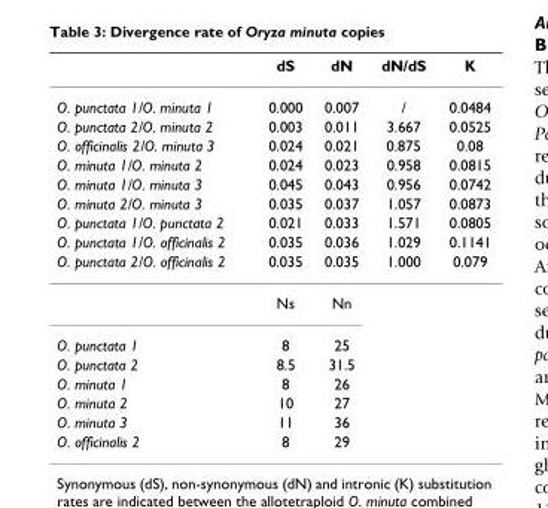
<table><thead><tr><td></td><td>dS</td><td>dN</td><td>dN/dS</td><td>K</td></tr></thead><tbody><tr><td>O. punctata 1/O. minuta 1</td><td>0.000</td><td>0.007</td><td>/</td><td>0.0484</td></tr><tr><td>O. punctata 2/O. minuta 2</td><td>0.003</td><td>0.011</td><td>3.667</td><td>0.0525</td></tr><tr><td>O. officinalis 2/O. minuta 3</td><td>0.024</td><td>0.021</td><td>0.875</td><td>0.08</td></tr><tr><td>O. minuta 1/O. minuta 2</td><td>0.024</td><td>0.023</td><td>0.958</td><td>0.0815</td></tr><tr><td>O. minuta 1/O. minuta 3</td><td>0.045</td><td>0.043</td><td>0.956</td><td>0.0742</td></tr><tr><td>O. minuta 2/O. minuta 3</td><td>0.035</td><td>0.037</td><td>1.057</td><td>0.0873</td></tr><tr><td>O. punctata 1/O. punctata 2</td><td>0.021</td><td>0.033</td><td>1.571</td><td>0.0805</td></tr><tr><td>O. punctata 1/O. officinalis 2</td><td>0.035</td><td>0.036</td><td>1.029</td><td>0.1141</td></tr><tr><td rowspan="2">O. punctata 2/O. officinalis 2</td><td>0.035</td><td>0.035</td><td>1.000</td><td>0.079</td></tr><tr><td>Ns</td><td>Nn</td><td></td><td></td></tr><tr><td>O. punctata 1</td><td>8</td><td>25</td><td></td><td></td></tr><tr><td>O. punctata 2</td><td>8.5</td><td>31.5</td><td></td><td></td></tr><tr><td>O. minuta 1</td><td>8</td><td>26</td><td></td><td></td></tr><tr><td>O. minuta 2</td><td>10</td><td>27</td><td></td><td></td></tr><tr><td>O. minuta 3</td><td>11</td><td>36</td><td></td><td></td></tr><tr><td>O. officinalis 2</td><td>8</td><td>29</td><td></td><td></td></tr></tbody></table>